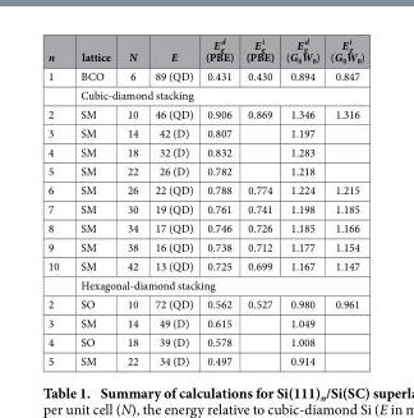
<table><thead><tr><td>n</td><td>lattice</td><td>N</td><td>E</td><td>(PBE)</td><td>(PBE)</td><td>(G<sub>0</sub>W<sub>0</sub>)</td><td>(G<sub>0</sub>W<sub>0</sub>)</td></tr></thead><tbody><tr><td rowspan="2">1</td><td>BCO</td><td>6</td><td>89 (QD)</td><td>0.431</td><td>0.430</td><td>0.894</td><td>0.847</td></tr><tr><td colspan="7">Cubic-diamond stacking</td></tr><tr><td>2</td><td>SM</td><td>10</td><td>46 (QD)</td><td>0.906</td><td>0.869</td><td>1.346</td><td>1.316</td></tr><tr><td>3</td><td>SM</td><td>14</td><td>42 (D)</td><td>0.807</td><td></td><td>1.197</td><td></td></tr><tr><td>4</td><td>SM</td><td>18</td><td>32 (D)</td><td>0.832</td><td></td><td>1.283</td><td></td></tr><tr><td>5</td><td>SM</td><td>22</td><td>26 (D)</td><td>0.782</td><td></td><td>1.218</td><td></td></tr><tr><td>6</td><td>SM</td><td>26</td><td>22 (QD)</td><td>0.788</td><td>0.774</td><td>1.224</td><td>1.215</td></tr><tr><td>7</td><td>SM</td><td>30</td><td>19 (QD)</td><td>0.761</td><td>0.741</td><td>1.198</td><td>1.185</td></tr><tr><td>8</td><td>SM</td><td>34</td><td>17 (QD)</td><td>0.746</td><td>0.726</td><td>1.185</td><td>1.166</td></tr><tr><td>9</td><td>SM</td><td>38</td><td>16 (QD)</td><td>0.738</td><td>0.712</td><td>1.177</td><td>1.154</td></tr><tr><td rowspan="2">10</td><td>SM</td><td>42</td><td>13 (QD)</td><td>0.725</td><td>0.699</td><td>1.167</td><td>1.147</td></tr><tr><td colspan="7">Hexagonal-diamond stacking</td></tr><tr><td>2</td><td>SO</td><td>10</td><td>72 (QD)</td><td>0.562</td><td>0.527</td><td>0.980</td><td>0.961</td></tr><tr><td>3</td><td>SM</td><td>14</td><td>49 (D)</td><td>0.615</td><td></td><td>1.049</td><td></td></tr><tr><td>4</td><td>SO</td><td>18</td><td>39 (D)</td><td>0.578</td><td></td><td>1.008</td><td></td></tr><tr><td>5</td><td>SM</td><td>22</td><td>34 (D)</td><td>0.497</td><td></td><td>0.914</td><td></td></tr></tbody></table>